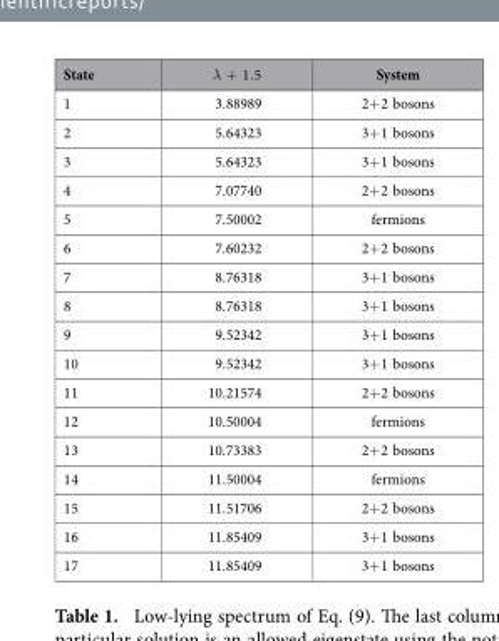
<table><thead><tr><td>State</td><td>λ + .1 5</td><td>System</td></tr></thead><tbody><tr><td>1</td><td>3.88989</td><td>2+ 2 bosons</td></tr><tr><td>2</td><td>5.64323</td><td>3+ 1 bosons</td></tr><tr><td>3</td><td>5.64323</td><td>3+ 1 bosons</td></tr><tr><td>4</td><td>7.07740</td><td>2+ 2 bosons</td></tr><tr><td>5</td><td>7.50002</td><td>fermions</td></tr><tr><td>6</td><td>7.60232</td><td>2+ 2 bosons</td></tr><tr><td>7</td><td>8.76318</td><td>3+ 1 bosons</td></tr><tr><td>8</td><td>8.76318</td><td>3+ 1 bosons</td></tr><tr><td>9</td><td>9.52342</td><td>3+ 1 bosons</td></tr><tr><td>10</td><td>9.52342</td><td>3+ 1 bosons</td></tr><tr><td>11</td><td>10.21574</td><td>2+ 2 bosons</td></tr><tr><td>12</td><td>10.50004</td><td>fermions</td></tr><tr><td>13</td><td>10.73383</td><td>2+ 2 bosons</td></tr><tr><td>14</td><td>11.50004</td><td>fermions</td></tr><tr><td>15</td><td>11.51706</td><td>2+ 2 bosons</td></tr><tr><td>16</td><td>11.85409</td><td>3+ 1 bosons</td></tr><tr><td>17</td><td>11.85409</td><td>3+ 1 bosons</td></tr></tbody></table>